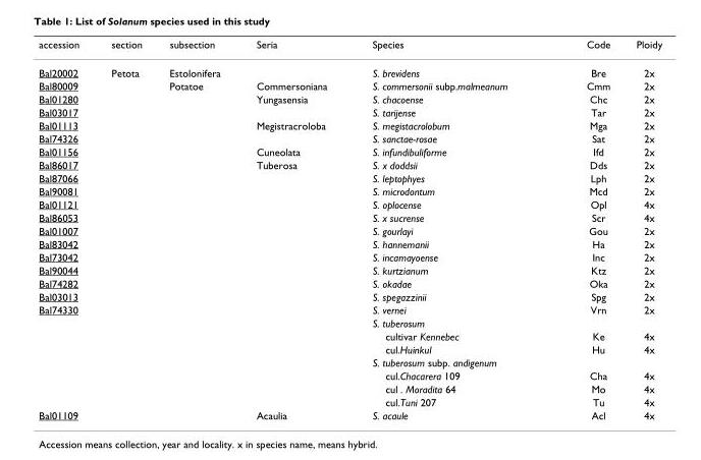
<table><thead><tr><td>accession</td><td>section</td><td>subsection</td><td>Seria</td><td>Species</td><td>Code</td><td>Ploidy</td></tr></thead><tbody><tr><td>Bal20002</td><td>Petota</td><td>Estolonifera</td><td></td><td>S. brevidens</td><td>Bre</td><td>2x</td></tr><tr><td>Bal80009</td><td></td><td>Potatoe</td><td>Commersoniana</td><td>S. commersonii subp.malmeanum</td><td>Cmm</td><td>2x</td></tr><tr><td>Bal01280</td><td></td><td></td><td>Yungasensia</td><td>S. chacoense</td><td>Chc</td><td>2x</td></tr><tr><td>Bal03017</td><td></td><td></td><td></td><td>S. tarijense</td><td>Tar</td><td>2x</td></tr><tr><td>Bal01113</td><td></td><td></td><td>Megistracroloba</td><td>S. megistacrolobum</td><td>Mga</td><td>2x</td></tr><tr><td>Bal74326</td><td></td><td></td><td></td><td>S. sanctae-rosae</td><td>Sat</td><td>2x</td></tr><tr><td>Bal01156</td><td></td><td></td><td>Cuneolata</td><td>S. infundibuliforme</td><td>Ifd</td><td>2x</td></tr><tr><td>Bal86017</td><td></td><td></td><td>Tuberosa</td><td>S. x doddsii</td><td>Dds</td><td>2x</td></tr><tr><td>Bal87066</td><td></td><td></td><td></td><td>S. leptophyes</td><td>Lph</td><td>2x</td></tr><tr><td>Bal90081</td><td></td><td></td><td></td><td>S. microdontum</td><td>Mcd</td><td>2x</td></tr><tr><td>Bal01121</td><td></td><td></td><td></td><td>S. oplocense</td><td>Opl</td><td>4x</td></tr><tr><td>Bal86053</td><td></td><td></td><td></td><td>S. x sucrense</td><td>Scr</td><td>4x</td></tr><tr><td>Bal01007</td><td></td><td></td><td></td><td>S. gourlayi</td><td>Gou</td><td>2x</td></tr><tr><td>Bal83042</td><td></td><td></td><td></td><td>S. hannemanii</td><td>Ha</td><td>2x</td></tr><tr><td>Bal73042</td><td></td><td></td><td></td><td>S. incamayoense</td><td>Inc</td><td>2x</td></tr><tr><td>Bal90044</td><td></td><td></td><td></td><td>S. kurtzianum</td><td>Ktz</td><td>2x</td></tr><tr><td>Bal74282</td><td></td><td></td><td></td><td>S. okadae</td><td>Oka</td><td>2x</td></tr><tr><td>Bal03013</td><td></td><td></td><td></td><td>S. spegazzinii</td><td>Spg</td><td>2x</td></tr><tr><td rowspan="8">Bal74330</td><td></td><td></td><td></td><td>S. vernei</td><td>Vrn</td><td>2x</td></tr><tr><td></td><td></td><td></td><td>S. tuberosum</td><td></td><td></td></tr><tr><td></td><td></td><td></td><td>cultivar Kennebec</td><td>Ke</td><td>4x</td></tr><tr><td></td><td></td><td></td><td>cul.Huinkul</td><td>Hu</td><td>4x</td></tr><tr><td></td><td></td><td></td><td>S. tuberosum subp. andigenum</td><td></td><td></td></tr><tr><td></td><td></td><td></td><td>cul.Chacarera 109</td><td>Cha</td><td>4x</td></tr><tr><td></td><td></td><td></td><td>cul . Moradita 64</td><td>Mo</td><td>4x</td></tr><tr><td></td><td></td><td></td><td>cul.Tuni 207</td><td>Tu</td><td>4x</td></tr><tr><td>Bal01109</td><td></td><td></td><td>Acaulia</td><td>S. acaule</td><td>Acl</td><td>4x</td></tr></tbody></table>